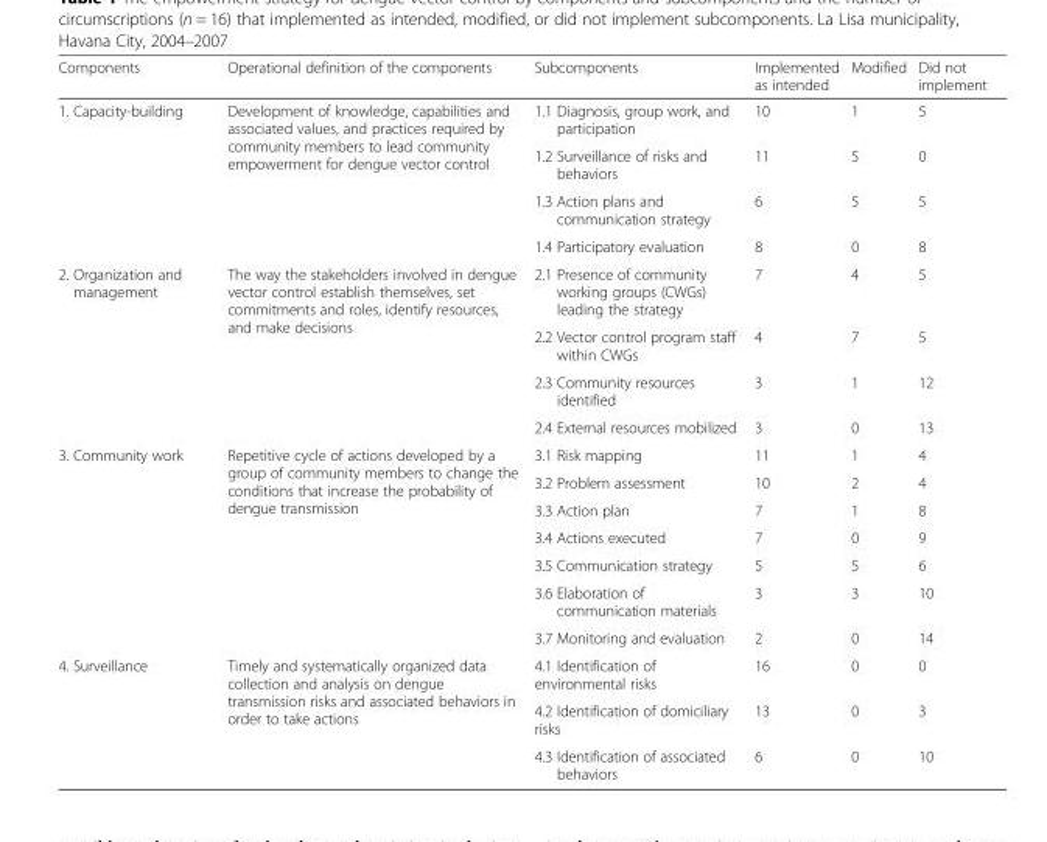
<table><thead><tr><td>Components</td><td>Operational definition of the components</td><td>Subcomponents</td><td>Implemented as intended</td><td>Modified</td><td>Did not implement</td></tr></thead><tbody><tr><td rowspan="4">1. Capacity-building</td><td rowspan="4">Development of knowledge, capabilities and associated values, and practices required by community members to lead community empowerment for dengue vector control</td><td>1.1 Diagnosis, group work, and participation</td><td>10</td><td>1</td><td>5</td></tr><tr><td>1.2 Surveillance of risks and behaviors</td><td>11</td><td>5</td><td>0</td></tr><tr><td>1.3 Action plans and communication strategy</td><td>6</td><td>5</td><td>5</td></tr><tr><td>1.4 Participatory evaluation</td><td>8</td><td>0</td><td>8</td></tr><tr><td rowspan="4">2. Organization and management</td><td rowspan="4">The way the stakeholders involved in dengue vector control establish themselves, set commitments and roles, identify resources, and make decisions</td><td>2.1 Presence of community working groups (CWGs) leading the strategy</td><td>7</td><td>4</td><td>5</td></tr><tr><td>2.2 Vector control program staff within CWGs</td><td>4</td><td>7</td><td>5</td></tr><tr><td>2.3 Community resources identified</td><td>3</td><td>1</td><td>12</td></tr><tr><td>2.4 External resources mobilized</td><td>3</td><td>0</td><td>13</td></tr><tr><td rowspan="7">3. Community work</td><td rowspan="7">Repetitive cycle of actions developed by a group of community members to change the conditions that increase the probability of dengue transmission</td><td>3.1 Risk mapping</td><td>11</td><td>1</td><td>4</td></tr><tr><td>3.2 Problem assessment</td><td>10</td><td>2</td><td>4</td></tr><tr><td>3.3 Action plan</td><td>7</td><td>1</td><td>8</td></tr><tr><td>3.4 Actions executed</td><td>7</td><td>0</td><td>9</td></tr><tr><td>3.5 Communication strategy</td><td>5</td><td>5</td><td>6</td></tr><tr><td>3.6 Elaboration of communication materials</td><td>3</td><td>3</td><td>10</td></tr><tr><td>3.7 Monitoring and evaluation</td><td>2</td><td>0</td><td>14</td></tr><tr><td rowspan="3">4. Surveillance</td><td rowspan="3">Timely and systematically organized data collection and analysis on dengue transmission risks and associated behaviors in order to take actions</td><td>4.1 Identification of environmental risks</td><td>16</td><td>0</td><td>0</td></tr><tr><td>4.2 Identification of domiciliary risks</td><td>13</td><td>0</td><td>3</td></tr><tr><td>4.3 Identification of associated behaviors</td><td>6</td><td>0</td><td>10</td></tr></tbody></table>